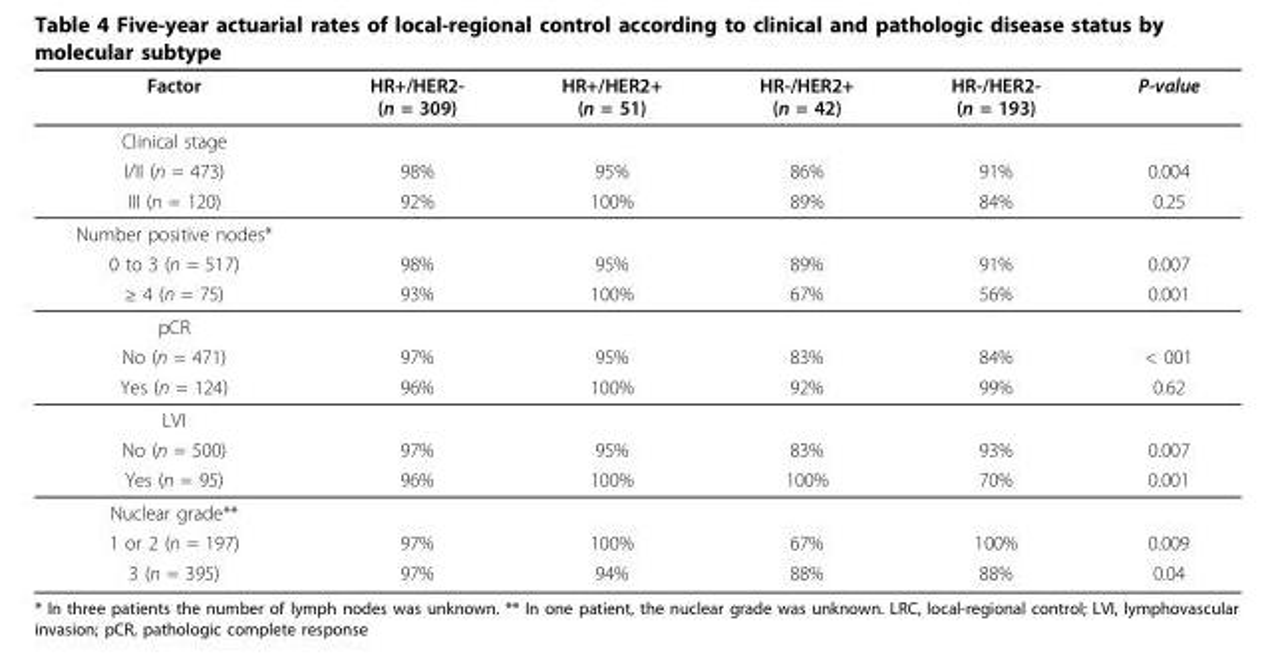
<table><thead><tr><td>Factor</td><td>HR+/HER2- (n = 309)</td><td>HR+/HER2+ (n = 51)</td><td>HR-/HER2+ (n = 42)</td><td>HR-/HER2- (n = 193)</td><td>P-value</td></tr></thead><tbody><tr><td colspan="6">Clinical stage</td></tr><tr><td>I/II (n = 473)</td><td>98%</td><td>95%</td><td>86%</td><td>91%</td><td>0.004</td></tr><tr><td>III (n = 120)</td><td>92%</td><td>100%</td><td>89%</td><td>84%</td><td>0.25</td></tr><tr><td colspan="6">Number positive nodes*</td></tr><tr><td>0 to 3 (n = 517)</td><td>98%</td><td>95%</td><td>89%</td><td>91%</td><td>0.007</td></tr><tr><td>≥ 4 (n = 75)</td><td>93%</td><td>100%</td><td>67%</td><td>56%</td><td>0.001</td></tr><tr><td colspan="6">pCR</td></tr><tr><td>No (n = 471)</td><td>97%</td><td>95%</td><td>83%</td><td>84%</td><td>&lt; 001</td></tr><tr><td>Yes (n = 124)</td><td>96%</td><td>100%</td><td>92%</td><td>99%</td><td>0.62</td></tr><tr><td colspan="6">LVI</td></tr><tr><td>No (n = 500)</td><td>97%</td><td>95%</td><td>83%</td><td>93%</td><td>0.007</td></tr><tr><td>Yes (n = 95)</td><td>96%</td><td>100%</td><td>100%</td><td>70%</td><td>0.001</td></tr><tr><td colspan="6">Nuclear grade**</td></tr><tr><td>1 or 2 (n = 197)</td><td>97%</td><td>100%</td><td>67%</td><td>100%</td><td>0.009</td></tr><tr><td>3 (n = 395)</td><td>97%</td><td>94%</td><td>88%</td><td>88%</td><td>0.04</td></tr></tbody></table>